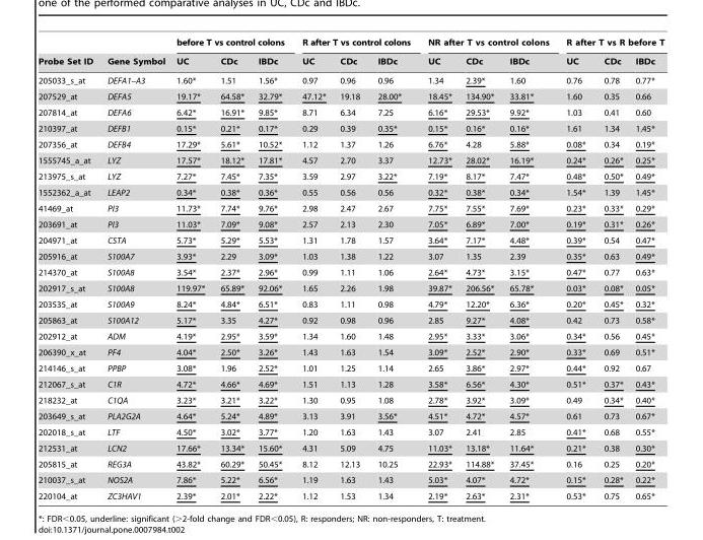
<table><thead><tr><td rowspan="2">Probe Set ID</td><td rowspan="2">Gene Symbol</td><td colspan="3">before T vs control colons</td><td colspan="3">R after T vs control colons</td><td colspan="3">NR after T vs control colons</td><td colspan="3">R after T vs R before T</td></tr><tr><td>UC</td><td>CDc</td><td>IBDc</td><td>UC</td><td>CDc</td><td>IBDc</td><td>UC</td><td>CDc</td><td>IBDc</td><td>UC</td><td>CDc</td><td>IBDc</td></tr></thead><tbody><tr><td>205033_s_at</td><td>DEFA1–A3</td><td>1.60*</td><td>1.51</td><td>1.56*</td><td>0.97</td><td>0.96</td><td>0.96</td><td>1.34</td><td>2.39*</td><td>1.60</td><td>0.76</td><td>0.78</td><td>0.77*</td></tr><tr><td>207529_at</td><td>DEFA5</td><td>19.17*</td><td>64.58*</td><td>32.79*</td><td>47.12*</td><td>19.18</td><td>28.00*</td><td>18.45*</td><td>134.90*</td><td>33.81*</td><td>1.60</td><td>0.35</td><td>0.66</td></tr><tr><td>207814_at</td><td>DEFA6</td><td>6.42*</td><td>16.91*</td><td>9.85*</td><td>8.71</td><td>6.34</td><td>7.25</td><td>6.16*</td><td>29.53*</td><td>9.92*</td><td>1.03</td><td>0.41</td><td>0.60</td></tr><tr><td>210397_at</td><td>DEFB1</td><td>0.15*</td><td>0.21*</td><td>0.17*</td><td>0.29</td><td>0.39</td><td>0.35*</td><td>0.15*</td><td>0.16*</td><td>0.16*</td><td>1.61</td><td>1.34</td><td>1.45*</td></tr><tr><td>207356_at</td><td>DEFB4</td><td>17.29*</td><td>5.61*</td><td>10.52*</td><td>1.12</td><td>1.37</td><td>1.26</td><td>6.76*</td><td>4.28</td><td>5.88*</td><td>0.08*</td><td>0.34</td><td>0.19*</td></tr><tr><td>1555745_a_at</td><td>LYZ</td><td>17.57*</td><td>18.12*</td><td>17.81*</td><td>4.57</td><td>2.70</td><td>3.37</td><td>12.73*</td><td>28.02*</td><td>16.19*</td><td>0.24*</td><td>0.26*</td><td>0.25*</td></tr><tr><td>213975_s_at</td><td>LYZ</td><td>7.27*</td><td>7.45*</td><td>7.35*</td><td>3.59</td><td>2.97</td><td>3.22*</td><td>7.19*</td><td>8.17*</td><td>7.47*</td><td>0.48*</td><td>0.50*</td><td>0.49*</td></tr><tr><td>1552362_a_at</td><td>LEAP2</td><td>0.34*</td><td>0.38*</td><td>0.36*</td><td>0.55</td><td>0.56</td><td>0.56</td><td>0.32*</td><td>0.38*</td><td>0.34*</td><td>1.54*</td><td>1.39</td><td>1.45*</td></tr><tr><td>41469_at</td><td>PI3</td><td>11.73*</td><td>7.74*</td><td>9.76*</td><td>2.98</td><td>2.47</td><td>2.67</td><td>7.75*</td><td>7.55*</td><td>7.69*</td><td>0.23*</td><td>0.33*</td><td>0.29*</td></tr><tr><td>203691_at</td><td>PI3</td><td>11.03*</td><td>7.09*</td><td>9.08*</td><td>2.57</td><td>2.13</td><td>2.30</td><td>7.05*</td><td>6.89*</td><td>7.00*</td><td>0.19*</td><td>0.31*</td><td>0.26*</td></tr><tr><td>204971_at</td><td>CSTA</td><td>5.73*</td><td>5.29*</td><td>5.53*</td><td>1.31</td><td>1.78</td><td>1.57</td><td>3.64*</td><td>7.17*</td><td>4.48*</td><td>0.39*</td><td>0.54</td><td>0.47*</td></tr><tr><td>205916_at</td><td>S100A7</td><td>3.93*</td><td>2.29</td><td>3.09*</td><td>1.03</td><td>1.38</td><td>1.22</td><td>3.07</td><td>1.35</td><td>2.39</td><td>0.35*</td><td>0.63</td><td>0.49*</td></tr><tr><td>214370_at</td><td>S100A8</td><td>3.54*</td><td>2.37*</td><td>2.96*</td><td>0.99</td><td>1.11</td><td>1.06</td><td>2.64*</td><td>4.73*</td><td>3.15*</td><td>0.47*</td><td>0.77</td><td>0.63*</td></tr><tr><td>202917_s_at</td><td>S100A8</td><td>119.97*</td><td>65.89*</td><td>92.06*</td><td>1.65</td><td>2.26</td><td>1.98</td><td>39.87*</td><td>206.56*</td><td>65.78*</td><td>0.03*</td><td>0.08*</td><td>0.05*</td></tr><tr><td>203535_at</td><td>S100A9</td><td>8.24*</td><td>4.84*</td><td>6.51*</td><td>0.83</td><td>1.11</td><td>0.98</td><td>4.79*</td><td>12.20*</td><td>6.36*</td><td>0.20*</td><td>0.45*</td><td>0.32*</td></tr><tr><td>205863_at</td><td>S100A12</td><td>5.17*</td><td>3.35</td><td>4.27*</td><td>0.92</td><td>0.98</td><td>0.96</td><td>2.85</td><td>9.27*</td><td>4.08*</td><td>0.42</td><td>0.73</td><td>0.58*</td></tr><tr><td>202912_at</td><td>ADM</td><td>4.19*</td><td>2.95*</td><td>3.59*</td><td>1.34</td><td>1.60</td><td>1.48</td><td>2.95*</td><td>3.33*</td><td>3.06*</td><td>0.34*</td><td>0.56</td><td>0.45*</td></tr><tr><td>206390_x_at</td><td>PF4</td><td>4.04*</td><td>2.50*</td><td>3.26*</td><td>1.43</td><td>1.63</td><td>1.54</td><td>3.09*</td><td>2.52*</td><td>2.90*</td><td>0.33*</td><td>0.69</td><td>0.51*</td></tr><tr><td>214146_s_at</td><td>PPBP</td><td>3.08*</td><td>1.96</td><td>2.52*</td><td>1.01</td><td>1.25</td><td>1.14</td><td>2.65</td><td>3.86*</td><td>2.97*</td><td>0.44*</td><td>0.92</td><td>0.67</td></tr><tr><td>212067_s_at</td><td>C1R</td><td>4.72*</td><td>4.66*</td><td>4.69*</td><td>1.51</td><td>1.13</td><td>1.28</td><td>3.58*</td><td>6.56*</td><td>4.30*</td><td>0.51*</td><td>0.37*</td><td>0.43*</td></tr><tr><td>218232_at</td><td>C1QA</td><td>3.23*</td><td>3.21*</td><td>3.22*</td><td>1.30</td><td>0.95</td><td>1.08</td><td>2.78*</td><td>3.92*</td><td>3.09*</td><td>0.49</td><td>0.34*</td><td>0.40*</td></tr><tr><td>203649_s_at</td><td>PLA2G2A</td><td>4.64*</td><td>5.24*</td><td>4.89*</td><td>3.13</td><td>3.91</td><td>3.56*</td><td>4.51*</td><td>4.72*</td><td>4.57*</td><td>0.61</td><td>0.73</td><td>0.67*</td></tr><tr><td>202018_s_at</td><td>LTF</td><td>4.50*</td><td>3.02*</td><td>3.77*</td><td>1.20</td><td>1.63</td><td>1.43</td><td>3.07</td><td>2.41</td><td>2.85</td><td>0.41*</td><td>0.68</td><td>0.55*</td></tr><tr><td>212531_at</td><td>LCN2</td><td>17.66*</td><td>13.34*</td><td>15.60*</td><td>4.31</td><td>5.09</td><td>4.75</td><td>11.03*</td><td>13.18*</td><td>11.64*</td><td>0.21*</td><td>0.38</td><td>0.30*</td></tr><tr><td>205815_at</td><td>REG3A</td><td>43.82*</td><td>60.29*</td><td>50.45*</td><td>8.12</td><td>12.13</td><td>10.25</td><td>22.93*</td><td>114.88*</td><td>37.45*</td><td>0.16</td><td>0.25</td><td>0.20*</td></tr><tr><td>210037_s_at</td><td>NOS2A</td><td>7.86*</td><td>5.22*</td><td>6.56*</td><td>1.19</td><td>1.63</td><td>1.43</td><td>5.03*</td><td>4.07*</td><td>4.72*</td><td>0.15*</td><td>0.28*</td><td>0.22*</td></tr><tr><td>220104_at</td><td>ZC3HAV1</td><td>2.39*</td><td>2.01*</td><td>2.22*</td><td>1.12</td><td>1.53</td><td>1.34</td><td>2.19*</td><td>2.63*</td><td>2.31*</td><td>0.53*</td><td>0.75</td><td>0.65*</td></tr></tbody></table>